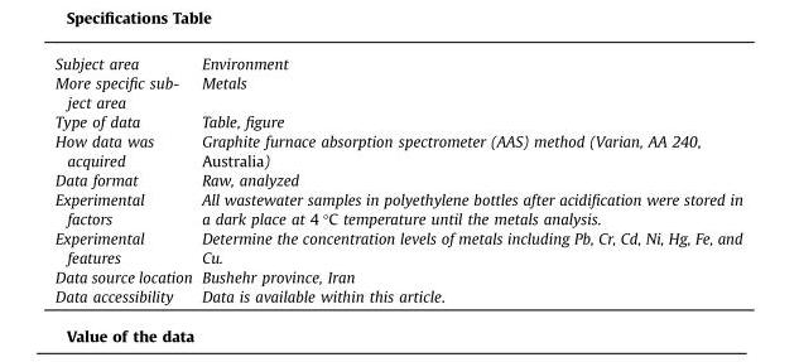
<table><tbody><tr><td>Subject area</td><td>Environment</td></tr><tr><td>More specific sub- ject area</td><td>Metals</td></tr><tr><td>Type of data</td><td>Table, figure</td></tr><tr><td>How data was acquired</td><td>Graphite furnace absorption spectrometer (AAS) method (Varian, AA 240, Australia)</td></tr><tr><td>Data format</td><td>Raw, analyzed</td></tr><tr><td>Experimental factors</td><td>All wastewater samples in polyethylene bottles after acidification were stored in a dark place at 4 °C temperature until the metals analysis.</td></tr><tr><td>Experimental features</td><td>Determine the concentration levels of metals including Pb, Cr, Cd, Ni, Hg, Fe, and Cu.</td></tr><tr><td>Data source location</td><td>Bushehr province, Iran</td></tr><tr><td>Data accessibility</td><td>Data is available within this article.</td></tr></tbody></table>